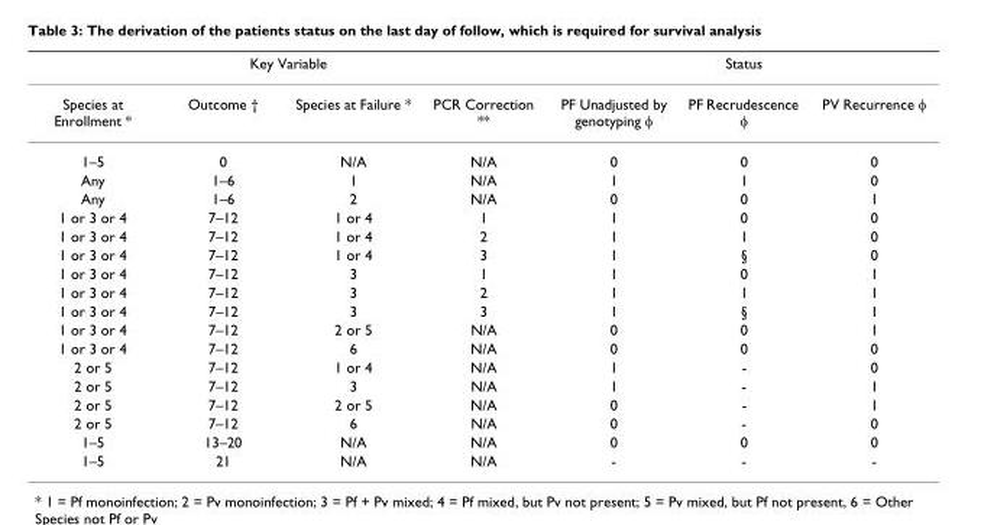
<table><thead><tr><td colspan="4">Key Variable</td><td colspan="3">Status</td></tr><tr><td>Species at Enrollment *</td><td>Outcome †</td><td>Species at Failure *</td><td>PCR Correction **</td><td>PF Unadjusted by genotyping φ</td><td>PF Recrudescence φ</td><td>PV Recurrence φ</td></tr></thead><tbody><tr><td>1–5</td><td>0</td><td>N/A</td><td>N/A</td><td>0</td><td>0</td><td>0</td></tr><tr><td>Any</td><td>1–6</td><td>1</td><td>N/A</td><td>1</td><td>1</td><td>0</td></tr><tr><td>Any</td><td>1–6</td><td>2</td><td>N/A</td><td>0</td><td>0</td><td>1</td></tr><tr><td>1 or 3 or 4</td><td>7–12</td><td>1 or 4</td><td>1</td><td>1</td><td>0</td><td>0</td></tr><tr><td>1 or 3 or 4</td><td>7–12</td><td>1 or 4</td><td>2</td><td>1</td><td>1</td><td>0</td></tr><tr><td>1 or 3 or 4</td><td>7–12</td><td>1 or 4</td><td>3</td><td>1</td><td>§</td><td>0</td></tr><tr><td>1 or 3 or 4</td><td>7–12</td><td>3</td><td>1</td><td>1</td><td>0</td><td>1</td></tr><tr><td>1 or 3 or 4</td><td>7–12</td><td>3</td><td>2</td><td>1</td><td>1</td><td>1</td></tr><tr><td>1 or 3 or 4</td><td>7–12</td><td>3</td><td>3</td><td>1</td><td>§</td><td>1</td></tr><tr><td>1 or 3 or 4</td><td>7–12</td><td>2 or 5</td><td>N/A</td><td>0</td><td>0</td><td>1</td></tr><tr><td>1 or 3 or 4</td><td>7–12</td><td>6</td><td>N/A</td><td>0</td><td>0</td><td>0</td></tr><tr><td>2 or 5</td><td>7–12</td><td>1 or 4</td><td>N/A</td><td>1</td><td>-</td><td>0</td></tr><tr><td>2 or 5</td><td>7–12</td><td>3</td><td>N/A</td><td>1</td><td>-</td><td>1</td></tr><tr><td>2 or 5</td><td>7–12</td><td>2 or 5</td><td>N/A</td><td>0</td><td>-</td><td>1</td></tr><tr><td>2 or 5</td><td>7–12</td><td>6</td><td>N/A</td><td>0</td><td>-</td><td>0</td></tr><tr><td>1–5</td><td>13–20</td><td>N/A</td><td>N/A</td><td>0</td><td>0</td><td>0</td></tr><tr><td>1–5</td><td>21</td><td>N/A</td><td>N/A</td><td>-</td><td>-</td><td>-</td></tr></tbody></table>